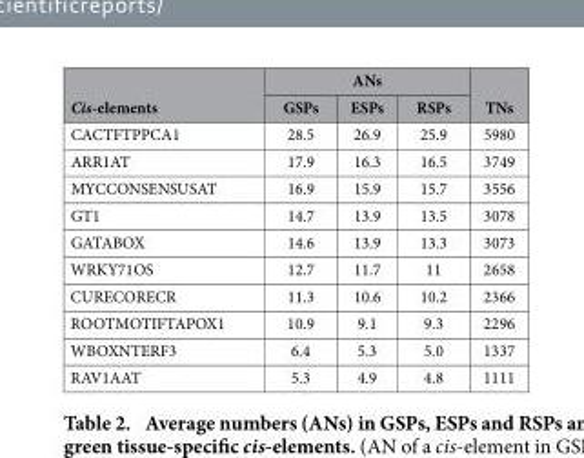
<table><thead><tr><td rowspan="2">Cis-elements</td><td colspan="3">ANs</td><td rowspan="2">TNs</td></tr><tr><td>GSPs</td><td>ESPs</td><td>RSPs</td></tr></thead><tbody><tr><td>CACTFTPPCA1</td><td>28.5</td><td>26.9</td><td>25.9</td><td>5980</td></tr><tr><td>ARR1AT</td><td>17.9</td><td>16.3</td><td>16.5</td><td>3749</td></tr><tr><td>MYCCONSENSUSAT</td><td>16.9</td><td>15.9</td><td>15.7</td><td>3556</td></tr><tr><td>GT1</td><td>14.7</td><td>13.9</td><td>13.5</td><td>3078</td></tr><tr><td>GATABOX</td><td>14.6</td><td>13.9</td><td>13.3</td><td>3073</td></tr><tr><td>WRKY71OS</td><td>12.7</td><td>11.7</td><td>11</td><td>2658</td></tr><tr><td>CURECORECR</td><td>11.3</td><td>10.6</td><td>10.2</td><td>2366</td></tr><tr><td>ROOTMOTIFTAPOX1</td><td>10.9</td><td>9.1</td><td>9.3</td><td>2296</td></tr><tr><td>WBOXNTERF3</td><td>6.4</td><td>5.3</td><td>5.0</td><td>1337</td></tr><tr><td>RAV1AAT</td><td>5.3</td><td>4.9</td><td>4.8</td><td>1111</td></tr></tbody></table>